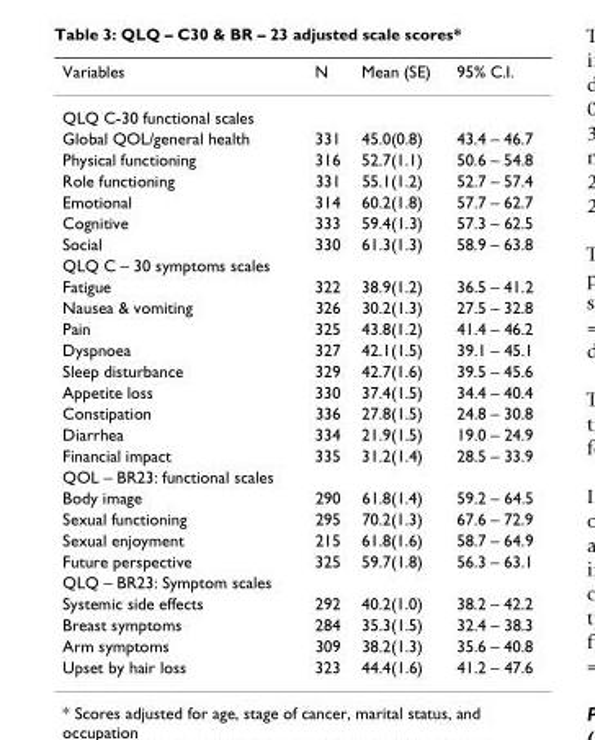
<table><thead><tr><td>Variables</td><td>N</td><td>Mean (SE)</td><td>95% C.I.</td></tr></thead><tbody><tr><td colspan="4">QLQ C-30 functional scales</td></tr><tr><td>Global QOL/general health</td><td>331</td><td>45.0(0.8)</td><td>43.4 – 46.7</td></tr><tr><td>Physical functioning</td><td>316</td><td>52.7(1.1)</td><td>50.6 – 54.8</td></tr><tr><td>Role functioning</td><td>331</td><td>55.1(1.2)</td><td>52.7 – 57.4</td></tr><tr><td>Emotional</td><td>314</td><td>60.2(1.8)</td><td>57.7 – 62.7</td></tr><tr><td>Cognitive</td><td>333</td><td>59.4(1.3)</td><td>57.3 – 62.5</td></tr><tr><td>Social</td><td>330</td><td>61.3(1.3)</td><td>58.9 – 63.8</td></tr><tr><td colspan="4">QLQ C – 30 symptoms scales</td></tr><tr><td>Fatigue</td><td>322</td><td>38.9(1.2)</td><td>36.5 – 41.2</td></tr><tr><td>Nausea &amp; vomiting</td><td>326</td><td>30.2(1.3)</td><td>27.5 – 32.8</td></tr><tr><td>Pain</td><td>325</td><td>43.8(1.2)</td><td>41.4 – 46.2</td></tr><tr><td>Dyspnoea</td><td>327</td><td>42.1(1.5)</td><td>39.1 – 45.1</td></tr><tr><td>Sleep disturbance</td><td>329</td><td>42.7(1.6)</td><td>39.5 – 45.6</td></tr><tr><td>Appetite loss</td><td>330</td><td>37.4(1.5)</td><td>34.4 – 40.4</td></tr><tr><td>Constipation</td><td>336</td><td>27.8(1.5)</td><td>24.8 – 30.8</td></tr><tr><td>Diarrhea</td><td>334</td><td>21.9(1.5)</td><td>19.0 – 24.9</td></tr><tr><td>Financial impact</td><td>335</td><td>31.2(1.4)</td><td>28.5 – 33.9</td></tr><tr><td colspan="4">QOL – BR23: functional scales</td></tr><tr><td>Body image</td><td>290</td><td>61.8(1.4)</td><td>59.2 – 64.5</td></tr><tr><td>Sexual functioning</td><td>295</td><td>70.2(1.3)</td><td>67.6 – 72.9</td></tr><tr><td>Sexual enjoyment</td><td>215</td><td>61.8(1.6)</td><td>58.7 – 64.9</td></tr><tr><td>Future perspective</td><td>325</td><td>59.7(1.8)</td><td>56.3 – 63.1</td></tr><tr><td colspan="4">QLQ – BR23: Symptom scales</td></tr><tr><td>Systemic side effects</td><td>292</td><td>40.2(1.0)</td><td>38.2 – 42.2</td></tr><tr><td>Breast symptoms</td><td>284</td><td>35.3(1.5)</td><td>32.4 – 38.3</td></tr><tr><td>Arm symptoms</td><td>309</td><td>38.2(1.3)</td><td>35.6 – 40.8</td></tr><tr><td>Upset by hair loss</td><td>323</td><td>44.4(1.6)</td><td>41.2 – 47.6</td></tr></tbody></table>